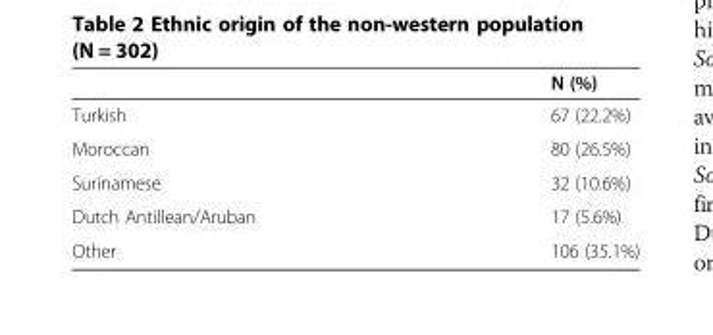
<table><thead><tr><td></td><td>N (%)</td></tr></thead><tbody><tr><td>Turkish</td><td>67 (22.2%)</td></tr><tr><td>Moroccan</td><td>80 (26.5%)</td></tr><tr><td>Surinamese</td><td>32 (10.6%)</td></tr><tr><td>Dutch Antillean/Aruban</td><td>17 (5.6%)</td></tr><tr><td>Other</td><td>106 (35.1%)</td></tr></tbody></table>